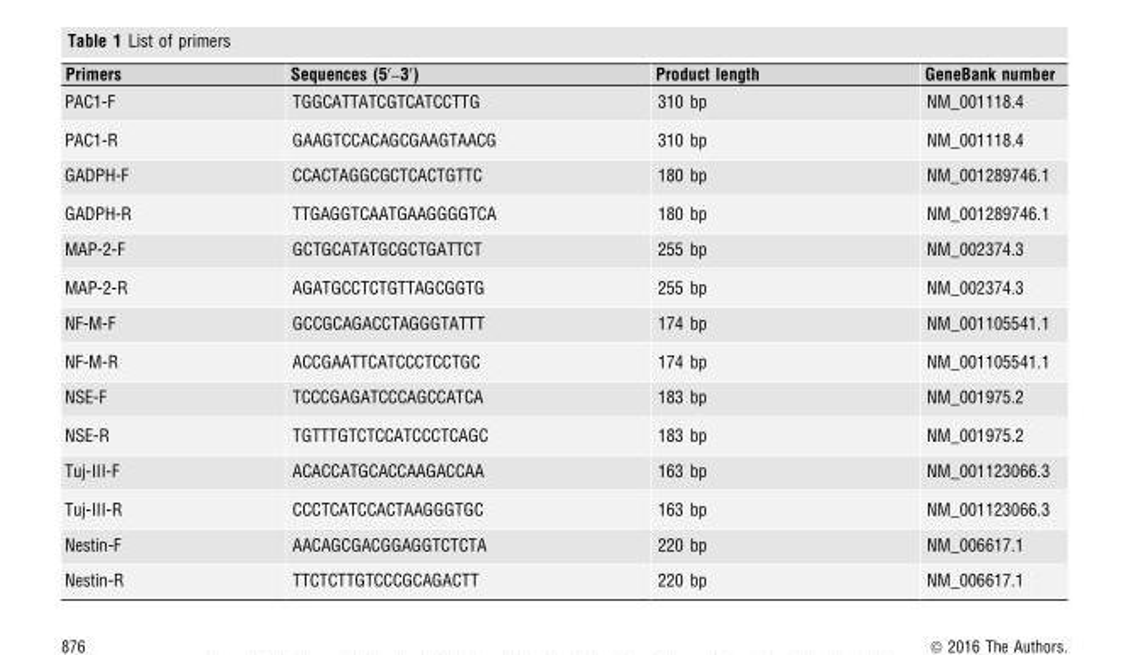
<table><thead><tr><td>Primers</td><td>Sequences (5′–3′)</td><td>Product length</td><td>GeneBank number</td></tr></thead><tbody><tr><td>PAC1-F</td><td>TGGCATTATCGTCATCCTTG</td><td>310 bp</td><td>NM_001118.4</td></tr><tr><td>PAC1-R</td><td>GAAGTCCACAGCGAAGTAACG</td><td>310 bp</td><td>NM_001118.4</td></tr><tr><td>GADPH-F</td><td>CCACTAGGCGCTCACTGTTC</td><td>180 bp</td><td>NM_001289746.1</td></tr><tr><td>GADPH-R</td><td>TTGAGGTCAATGAAGGGGTCA</td><td>180 bp</td><td>NM_001289746.1</td></tr><tr><td>MAP-2-F</td><td>GCTGCATATGCGCTGATTCT</td><td>255 bp</td><td>NM_002374.3</td></tr><tr><td>MAP-2-R</td><td>AGATGCCTCTGTTAGCGGTG</td><td>255 bp</td><td>NM_002374.3</td></tr><tr><td>NF-M-F</td><td>GCCGCAGACCTAGGGTATTT</td><td>174 bp</td><td>NM_001105541.1</td></tr><tr><td>NF-M-R</td><td>ACCGAATTCATCCCTCCTGC</td><td>174 bp</td><td>NM_001105541.1</td></tr><tr><td>NSE-F</td><td>TCCCGAGATCCCAGCCATCA</td><td>183 bp</td><td>NM_001975.2</td></tr><tr><td>NSE-R</td><td>TGTTTGTCTCCATCCCTCAGC</td><td>183 bp</td><td>NM_001975.2</td></tr><tr><td>Tuj-III-F</td><td>ACACCATGCACCAAGACCAA</td><td>163 bp</td><td>NM_001123066.3</td></tr><tr><td>Tuj-III-R</td><td>CCCTCATCCACTAAGGGTGC</td><td>163 bp</td><td>NM_001123066.3</td></tr><tr><td>Nestin-F</td><td>AACAGCGACGGAGGTCTCTA</td><td>220 bp</td><td>NM_006617.1</td></tr><tr><td>Nestin-R</td><td>TTCTCTTGTCCCGCAGACTT</td><td>220 bp</td><td>NM_006617.1</td></tr></tbody></table>